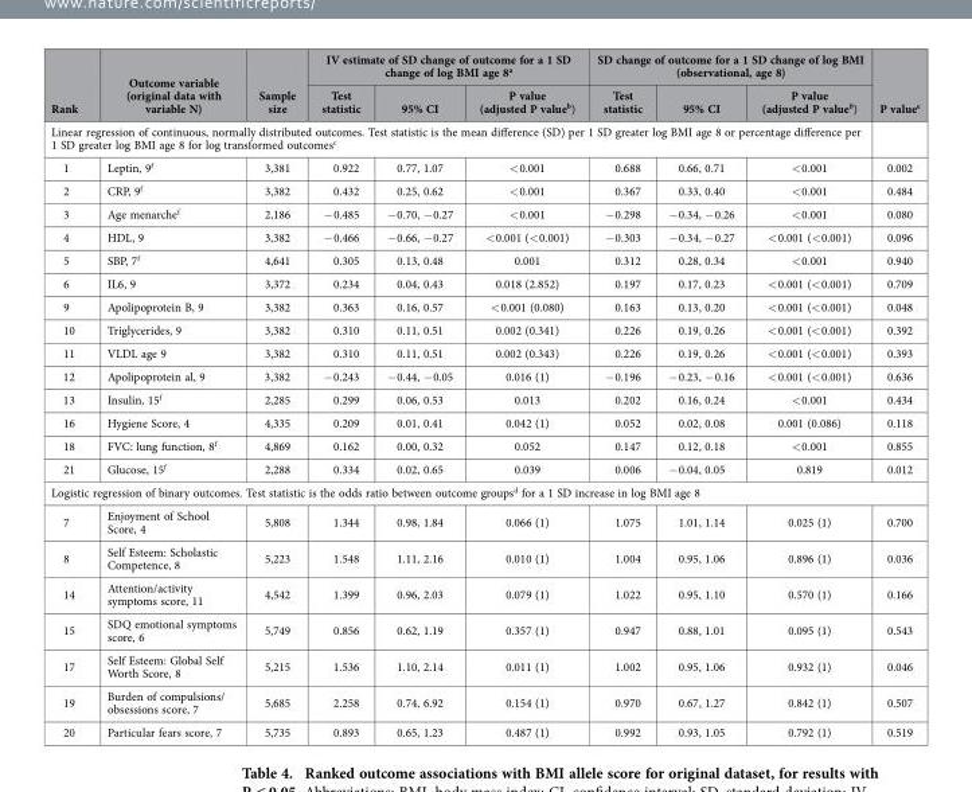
<table><thead><tr><td rowspan="2">Rank</td><td rowspan="2">Outcome variable (original data with variable N)</td><td rowspan="2">Sample size</td><td colspan="3">IV estimate of SD change of outcome for a 1 SD change of log BMI age 8<sup>a</sup></td><td colspan="3">SD change of outcome for a 1 SD change of log BMI (observational, age 8)</td><td rowspan="2">P value<sup>e</sup></td></tr><tr><td>Test statistic</td><td>95% CI</td><td>P value (adjusted P value<sup>b</sup>)</td><td>Test statistic</td><td>95% CI</td><td>P value (adjusted P value<sup>b</sup>)</td></tr></thead><tbody><tr><td colspan="10">Linear regression of continuous, normally distributed outcomes. Test statistic is the mean difference (SD) per 1 SD greater log BMI age 8 or percentage difference per 1 SD greater log BMI age 8 for log transformed outcomes<sup>c</sup></td></tr><tr><td>1</td><td>Leptin, 9<sup>f</sup></td><td>3,381</td><td>0.922</td><td>0.77, 1.07</td><td>&lt; 0.001</td><td>0.688</td><td>0.66, 0.71</td><td>&lt; 0.001</td><td>0.002</td></tr><tr><td>2</td><td>CRP, 9<sup>f</sup></td><td>3,382</td><td>0.432</td><td>0.25, 0.62</td><td>&lt; 0.001</td><td>0.367</td><td>0.33, 0.40</td><td>&lt; 0.001</td><td>0.484</td></tr><tr><td>3</td><td>Age menarche<sup>f</sup></td><td>2,186</td><td>− 0.485</td><td>− 0.70, − 0.27</td><td>&lt; 0.001</td><td>− 0.298</td><td>− 0.34, − 0.26</td><td>&lt; 0.001</td><td>0.080</td></tr><tr><td>4</td><td>HDL, 9</td><td>3,382</td><td>− 0.466</td><td>− 0.66, − 0.27</td><td>&lt; 0.001 (&lt; 0.001)</td><td>− 0.303</td><td>− 0.34, − 0.27</td><td>&lt; 0.001 (&lt; 0.001)</td><td>0.096</td></tr><tr><td>5</td><td>SBP, 7<sup>f</sup></td><td>4,641</td><td>0.305</td><td>0.13, 0.48</td><td>0.001</td><td>0.312</td><td>0.28, 0.34</td><td>&lt; 0.001</td><td>0.940</td></tr><tr><td>6</td><td>IL6, 9</td><td>3,372</td><td>0.234</td><td>0.04, 0.43</td><td>0.018 (2.852)</td><td>0.197</td><td>0.17, 0.23</td><td>&lt; 0.001 (&lt; 0.001)</td><td>0.709</td></tr><tr><td>9</td><td>Apolipoprotein B, 9</td><td>3,382</td><td>0.363</td><td>0.16, 0.57</td><td>&lt; 0.001 (0.080)</td><td>0.163</td><td>0.13, 0.20</td><td>&lt; 0.001 (&lt; 0.001)</td><td>0.048</td></tr><tr><td>10</td><td>Triglycerides, 9</td><td>3,382</td><td>0.310</td><td>0.11, 0.51</td><td>0.002 (0.341)</td><td>0.226</td><td>0.19, 0.26</td><td>&lt; 0.001 (&lt; 0.001)</td><td>0.392</td></tr><tr><td>11</td><td>VLDL age 9</td><td>3,382</td><td>0.310</td><td>0.11, 0.51</td><td>0.002 (0.343)</td><td>0.226</td><td>0.19, 0.26</td><td>&lt; 0.001 (&lt; 0.001)</td><td>0.393</td></tr><tr><td>12</td><td>Apolipoprotein al, 9</td><td>3,382</td><td>− 0.243</td><td>− 0.44, − 0.05</td><td>0.016 (1)</td><td>− 0.196</td><td>− 0.23, − 0.16</td><td>&lt; 0.001 (&lt; 0.001)</td><td>0.636</td></tr><tr><td>13</td><td>Insulin, 15<sup>f</sup></td><td>2,285</td><td>0.299</td><td>0.06, 0.53</td><td>0.013</td><td>0.202</td><td>0.16, 0.24</td><td>&lt; 0.001</td><td>0.434</td></tr><tr><td>16</td><td>Hygiene Score, 4</td><td>4,335</td><td>0.209</td><td>0.01, 0.41</td><td>0.042 (1)</td><td>0.052</td><td>0.02, 0.08</td><td>0.001 (0.086)</td><td>0.118</td></tr><tr><td>18</td><td>FVC: lung function, 8<sup>f</sup></td><td>4,869</td><td>0.162</td><td>0.00, 0.32</td><td>0.052</td><td>0.147</td><td>0.12, 0.18</td><td>&lt; 0.001</td><td>0.855</td></tr><tr><td>21</td><td>Glucose, 15<sup>f</sup></td><td>2,288</td><td>0.334</td><td>0.02, 0.65</td><td>0.039</td><td>0.006</td><td>− 0.04, 0.05</td><td>0.819</td><td>0.012</td></tr><tr><td colspan="10">Logistic regression of binary outcomes. Test statistic is the odds ratio between outcome groups<sup>d</sup> for a 1 SD increase in log BMI age 8</td></tr><tr><td>7</td><td>Enjoyment of School Score, 4</td><td>5,808</td><td>1.344</td><td>0.98, 1.84</td><td>0.066 (1)</td><td>1.075</td><td>1.01, 1.14</td><td>0.025 (1)</td><td>0.700</td></tr><tr><td>8</td><td>Self Esteem: Scholastic Competence, 8</td><td>5,223</td><td>1.548</td><td>1.11, 2.16</td><td>0.010 (1)</td><td>1.004</td><td>0.95, 1.06</td><td>0.896 (1)</td><td>0.036</td></tr><tr><td>14</td><td>Attention/activity symptoms score, 11</td><td>4,542</td><td>1.399</td><td>0.96, 2.03</td><td>0.079 (1)</td><td>1.022</td><td>0.95, 1.10</td><td>0.570 (1)</td><td>0.166</td></tr><tr><td>15</td><td>SDQ emotional symptoms score, 6</td><td>5,749</td><td>0.856</td><td>0.62, 1.19</td><td>0.357 (1)</td><td>0.947</td><td>0.88, 1.01</td><td>0.095 (1)</td><td>0.543</td></tr><tr><td>17</td><td>Self Esteem: Global Self Worth Score, 8</td><td>5,215</td><td>1.536</td><td>1.10, 2.14</td><td>0.011 (1)</td><td>1.002</td><td>0.95, 1.06</td><td>0.932 (1)</td><td>0.046</td></tr><tr><td>19</td><td>Burden of compulsions/ obsessions score, 7</td><td>5,685</td><td>2.258</td><td>0.74, 6.92</td><td>0.154 (1)</td><td>0.970</td><td>0.67, 1.27</td><td>0.842 (1)</td><td>0.507</td></tr><tr><td>20</td><td>Particular fears score, 7</td><td>5,735</td><td>0.893</td><td>0.65, 1.23</td><td>0.487 (1)</td><td>0.992</td><td>0.93, 1.05</td><td>0.792 (1)</td><td>0.519</td></tr></tbody></table>